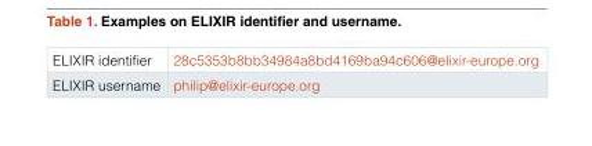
<table><tbody><tr><td>ELIXIR identifier</td><td>28c5353b8bb34984a8bd4169ba94c606@elixir-europe.org</td></tr><tr><td>ELIXIR username</td><td>philip@elixir-europe.org</td></tr></tbody></table>